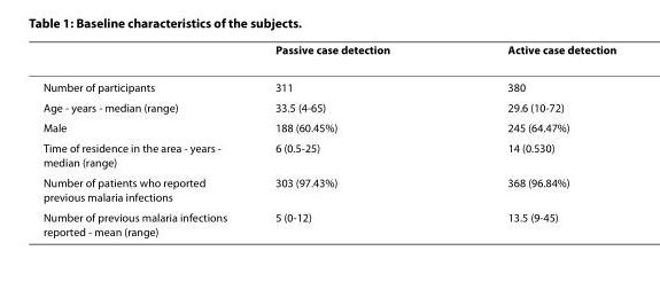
<table><thead><tr><td></td><td>Passive case detection</td><td>Active case detection</td></tr></thead><tbody><tr><td>Number of participants</td><td>311</td><td>380</td></tr><tr><td>Age - years - median (range)</td><td>33.5 (4-65)</td><td>29.6 (10-72)</td></tr><tr><td>Male</td><td>188 (60.45%)</td><td>245 (64.47%)</td></tr><tr><td>Time of residence in the area - years - median (range)</td><td>6 (0.5-25)</td><td>14 (0.530)</td></tr><tr><td>Number of patients who reported previous malaria infections</td><td>303 (97.43%)</td><td>368 (96.84%)</td></tr><tr><td>Number of previous malaria infections reported - mean (range)</td><td>5 (0-12)</td><td>13.5 (9-45)</td></tr></tbody></table>